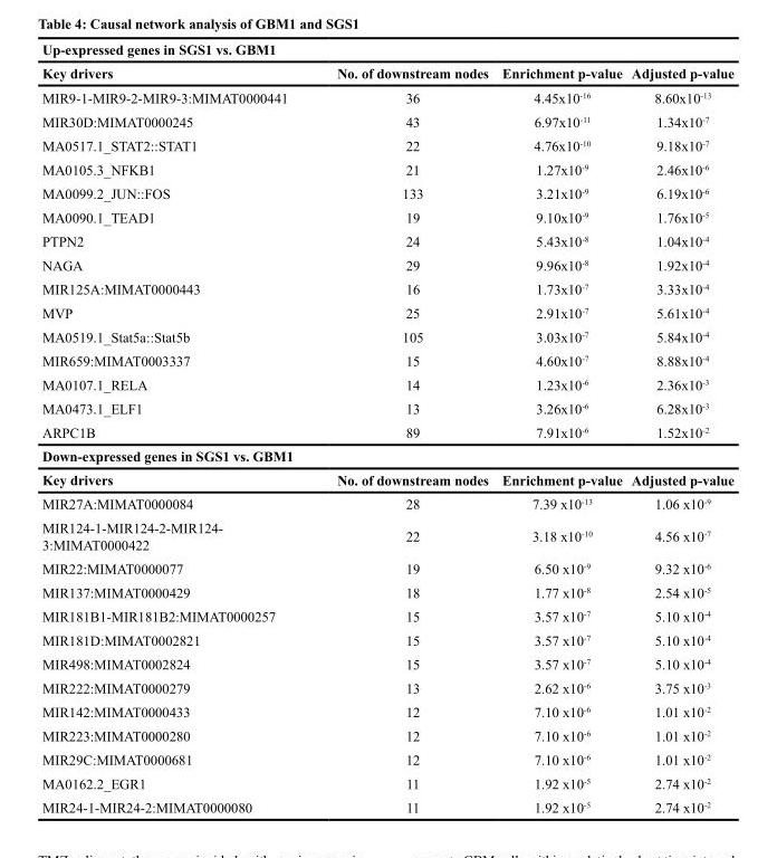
<table><thead><tr><td rowspan="2">Up-expressed genes in SGS1 vs. GBM1 Key drivers</td><td rowspan="2">No. of downstream nodes</td><td rowspan="2">Enrichment p-value</td><td rowspan="2">Adjusted p-value</td></tr><tr></tr></thead><tbody><tr><td>MIR9-1-MIR9-2-MIR9-3:MIMAT0000441</td><td>36</td><td>4.45x10-16</td><td>8.60x10-13</td></tr><tr><td>MIR30D:MIMAT0000245</td><td>43</td><td>6.97x10-11</td><td>1.34x10-7</td></tr><tr><td>MA0517.1_STAT2::STAT1</td><td>22</td><td>4.76x10-10</td><td>9.18x10-7</td></tr><tr><td>MA0105.3_NFKB1</td><td>21</td><td>1.27x10-9</td><td>2.46x10-6</td></tr><tr><td>MA0099.2_JUN::FOS</td><td>133</td><td>3.21x10-9</td><td>6.19x10-6</td></tr><tr><td>MA0090.1_TEAD1</td><td>19</td><td>9.10x10-9</td><td>1.76x10-5</td></tr><tr><td>PTPN2</td><td>24</td><td>5.43x10-8</td><td>1.04x10-4</td></tr><tr><td>NAGA</td><td>29</td><td>9.96x10-8</td><td>1.92x10-4</td></tr><tr><td>MIR125A:MIMAT0000443</td><td>16</td><td>1.73x10-7</td><td>3.33x10-4</td></tr><tr><td>MVP</td><td>25</td><td>2.91x10-7</td><td>5.61x10-4</td></tr><tr><td>MA0519.1_Stat5a::Stat5b</td><td>105</td><td>3.03x10-7</td><td>5.84x10-4</td></tr><tr><td>MIR659:MIMAT0003337</td><td>15</td><td>4.60x10-7</td><td>8.88x10-4</td></tr><tr><td>MA0107.1_RELA</td><td>14</td><td>1.23x10-6</td><td>2.36x10-3</td></tr><tr><td>MA0473.1_ELF1</td><td>13</td><td>3.26x10-6</td><td>6.28x10-3</td></tr><tr><td>ARPC1B</td><td>89</td><td>7.91x10-6</td><td>1.52x10-2</td></tr><tr><td colspan="4">Down-expressed genes in SGS1 vs. GBM1</td></tr><tr><td>Key drivers</td><td>No. of downstream nodes</td><td>Enrichment p-value</td><td>Adjusted p-value</td></tr><tr><td>MIR27A:MIMAT0000084</td><td>28</td><td>7.39 x10<sup>-13</sup></td><td>1.06 x10<sup>-9</sup></td></tr><tr><td>MIR124-1-MIR124-2-MIR124- 3:MIMAT0000422</td><td>22</td><td>3.18 x10<sup>-10</sup></td><td>4.56 x10<sup>-7</sup></td></tr><tr><td>MIR22:MIMAT0000077</td><td>19</td><td>6.50 x10<sup>-9</sup></td><td>9.32 x10<sup>-6</sup></td></tr><tr><td>MIR137:MIMAT0000429</td><td>18</td><td>1.77 x10<sup>-8</sup></td><td>2.54 x10<sup>-5</sup></td></tr><tr><td>MIR181B1-MIR181B2:MIMAT0000257</td><td>15</td><td>3.57 x10<sup>-7</sup></td><td>5.10 x10<sup>-4</sup></td></tr><tr><td>MIR181D:MIMAT0002821</td><td>15</td><td>3.57 x10<sup>-7</sup></td><td>5.10 x10<sup>-4</sup></td></tr><tr><td>MIR498:MIMAT0002824</td><td>15</td><td>3.57 x10<sup>-7</sup></td><td>5.10 x10<sup>-4</sup></td></tr><tr><td>MIR222:MIMAT0000279</td><td>13</td><td>2.62 x10<sup>-6</sup></td><td>3.75 x10<sup>-3</sup></td></tr><tr><td>MIR142:MIMAT0000433</td><td>12</td><td>7.10 x10<sup>-6</sup></td><td>1.01 x10<sup>-2</sup></td></tr><tr><td>MIR223:MIMAT0000280</td><td>12</td><td>7.10 x10<sup>-6</sup></td><td>1.01 x10<sup>-2</sup></td></tr><tr><td>MIR29C:MIMAT0000681</td><td>12</td><td>7.10 x10<sup>-6</sup></td><td>1.01 x10<sup>-2</sup></td></tr><tr><td>MA0162.2_EGR1</td><td>11</td><td>1.92 x10<sup>-5</sup></td><td>2.74 x10<sup>-2</sup></td></tr><tr><td>MIR24-1-MIR24-2:MIMAT0000080</td><td>11</td><td>1.92 x10<sup>-5</sup></td><td>2.74 x10<sup>-2</sup></td></tr></tbody></table>